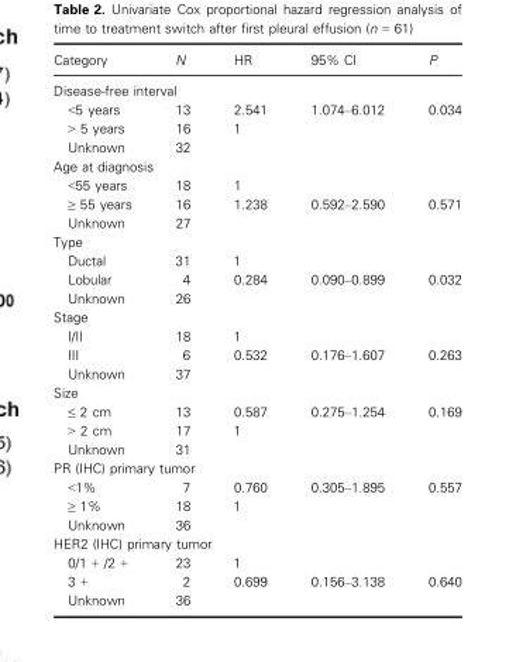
<table><thead><tr><td>Category</td><td>N</td><td>HR</td><td>95% CI</td><td>P</td></tr></thead><tbody><tr><td colspan="5">Disease-free interval</td></tr><tr><td>&lt;5 years</td><td>13</td><td>2.541</td><td>1.074–6.012</td><td>0.034</td></tr><tr><td>&gt; 5 years</td><td>16</td><td>1</td><td></td><td></td></tr><tr><td>Unknown</td><td>32</td><td></td><td></td><td></td></tr><tr><td colspan="5">Age at diagnosis</td></tr><tr><td>&lt;55 years</td><td>18</td><td>1</td><td></td><td></td></tr><tr><td>≥ 55 years</td><td>16</td><td>1.238</td><td>0.592–2.590</td><td>0.571</td></tr><tr><td>Unknown</td><td>27</td><td></td><td></td><td></td></tr><tr><td colspan="5">Type</td></tr><tr><td>Ductal</td><td>31</td><td>1</td><td></td><td></td></tr><tr><td>Lobular</td><td>4</td><td>0.284</td><td>0.090–0.899</td><td>0.032</td></tr><tr><td>Unknown</td><td>26</td><td></td><td></td><td></td></tr><tr><td colspan="5">Stage</td></tr><tr><td>I/II</td><td>18</td><td>1</td><td></td><td></td></tr><tr><td>III</td><td>6</td><td>0.532</td><td>0.176–1.607</td><td>0.263</td></tr><tr><td>Unknown</td><td>37</td><td></td><td></td><td></td></tr><tr><td colspan="5">Size</td></tr><tr><td>≤ 2 cm</td><td>13</td><td>0.587</td><td>0.275–1.254</td><td>0.169</td></tr><tr><td>&gt; 2 cm</td><td>17</td><td>1</td><td></td><td></td></tr><tr><td>Unknown</td><td>31</td><td></td><td></td><td></td></tr><tr><td colspan="5">PR (IHC) primary tumor</td></tr><tr><td>&lt;1%</td><td>7</td><td>0.760</td><td>0.305–1.895</td><td>0.557</td></tr><tr><td>≥ 1%</td><td>18</td><td>1</td><td></td><td></td></tr><tr><td>Unknown</td><td>36</td><td></td><td></td><td></td></tr><tr><td colspan="5">HER2 (IHC) primary tumor</td></tr><tr><td>0/1 + /2 +</td><td>23</td><td>1</td><td></td><td></td></tr><tr><td>3 +</td><td>2</td><td>0.699</td><td>0.156–3.138</td><td>0.640</td></tr><tr><td>Unknown</td><td>36</td><td></td><td></td><td></td></tr></tbody></table>